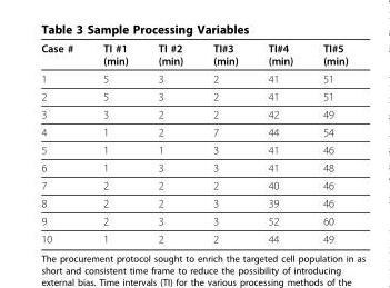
<table><thead><tr><td>Case #</td><td>TI #1 (min)</td><td>TI #2 (min)</td><td>TI#3 (min)</td><td>TI#4 (min)</td><td>TI#5 (min)</td></tr></thead><tbody><tr><td>1</td><td>5</td><td>3</td><td>2</td><td>41</td><td>51</td></tr><tr><td>2</td><td>5</td><td>3</td><td>2</td><td>41</td><td>51</td></tr><tr><td>3</td><td>3</td><td>2</td><td>2</td><td>42</td><td>49</td></tr><tr><td>4</td><td>1</td><td>2</td><td>7</td><td>44</td><td>54</td></tr><tr><td>5</td><td>1</td><td>1</td><td>3</td><td>41</td><td>46</td></tr><tr><td>6</td><td>1</td><td>3</td><td>3</td><td>41</td><td>48</td></tr><tr><td>7</td><td>2</td><td>2</td><td>2</td><td>40</td><td>46</td></tr><tr><td>8</td><td>2</td><td>2</td><td>3</td><td>39</td><td>46</td></tr><tr><td>9</td><td>2</td><td>3</td><td>3</td><td>52</td><td>60</td></tr><tr><td>10</td><td>1</td><td>2</td><td>2</td><td>44</td><td>49</td></tr></tbody></table>